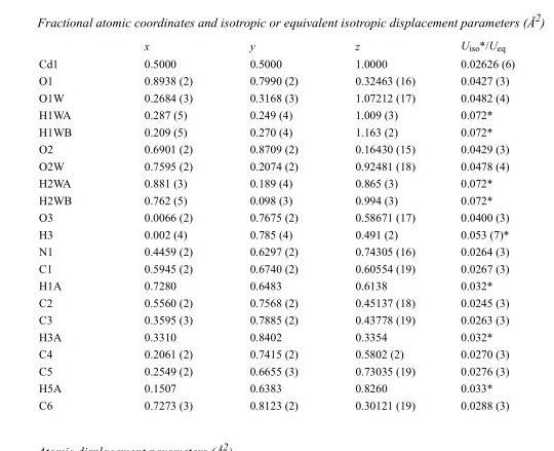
<table><thead><tr><td></td><td>x</td><td>y</td><td>z</td><td>U<sub>iso</sub>*/U<sub>eq</sub></td></tr></thead><tbody><tr><td>Cd1</td><td>0.5000</td><td>0.5000</td><td>1.0000</td><td>0.02626 (6)</td></tr><tr><td>O1</td><td>0.8938 (2)</td><td>0.7990 (2)</td><td>0.32463 (16)</td><td>0.0427 (3)</td></tr><tr><td>O1W</td><td>0.2684 (3)</td><td>0.3168 (3)</td><td>1.07212 (17)</td><td>0.0482 (4)</td></tr><tr><td>H1WA</td><td>0.287 (5)</td><td>0.249 (4)</td><td>1.009 (3)</td><td>0.072*</td></tr><tr><td>H1WB</td><td>0.209 (5)</td><td>0.270 (4)</td><td>1.163 (2)</td><td>0.072*</td></tr><tr><td>O2</td><td>0.6901 (2)</td><td>0.8709 (2)</td><td>0.16430 (15)</td><td>0.0429 (3)</td></tr><tr><td>O2W</td><td>0.7595 (2)</td><td>0.2074 (2)</td><td>0.92481 (18)</td><td>0.0478 (4)</td></tr><tr><td>H2WA</td><td>0.881 (3)</td><td>0.189 (4)</td><td>0.865 (3)</td><td>0.072*</td></tr><tr><td>H2WB</td><td>0.762 (5)</td><td>0.098 (3)</td><td>0.994 (3)</td><td>0.072*</td></tr><tr><td>O3</td><td>0.0066 (2)</td><td>0.7675 (2)</td><td>0.58671 (17)</td><td>0.0400 (3)</td></tr><tr><td>H3</td><td>0.002 (4)</td><td>0.785 (4)</td><td>0.491 (2)</td><td>0.053 (7)*</td></tr><tr><td>N1</td><td>0.4459 (2)</td><td>0.6297 (2)</td><td>0.74305 (16)</td><td>0.0264 (3)</td></tr><tr><td>C1</td><td>0.5945 (2)</td><td>0.6740 (2)</td><td>0.60554 (19)</td><td>0.0267 (3)</td></tr><tr><td>H1A</td><td>0.7280</td><td>0.6483</td><td>0.6138</td><td>0.032*</td></tr><tr><td>C2</td><td>0.5560 (2)</td><td>0.7568 (2)</td><td>0.45137 (18)</td><td>0.0245 (3)</td></tr><tr><td>C3</td><td>0.3595 (3)</td><td>0.7885 (2)</td><td>0.43778 (19)</td><td>0.0263 (3)</td></tr><tr><td>H3A</td><td>0.3310</td><td>0.8402</td><td>0.3354</td><td>0.032*</td></tr><tr><td>C4</td><td>0.2061 (2)</td><td>0.7415 (2)</td><td>0.5802 (2)</td><td>0.0270 (3)</td></tr><tr><td>C5</td><td>0.2549 (2)</td><td>0.6655 (3)</td><td>0.73035 (19)</td><td>0.0276 (3)</td></tr><tr><td>H5A</td><td>0.1507</td><td>0.6383</td><td>0.8260</td><td>0.033*</td></tr><tr><td>C6</td><td>0.7273 (3)</td><td>0.8123 (2)</td><td>0.30121 (19)</td><td>0.0288 (3)</td></tr></tbody></table>